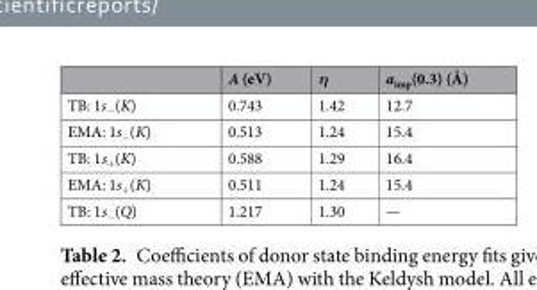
<table><thead><tr><td></td><td>A (eV)</td><td>η</td><td>a<sub>imp</sub>(0.3) (Å)</td></tr></thead><tbody><tr><td>TB: 1s<sub>−</sub>(K)</td><td>0.743</td><td>1.42</td><td>12.7</td></tr><tr><td>EMA: 1s<sub>−</sub>(K)</td><td>0.513</td><td>1.24</td><td>15.4</td></tr><tr><td>TB: 1s<sub>+</sub>(K)</td><td>0.588</td><td>1.29</td><td>16.4</td></tr><tr><td>EMA: 1s<sub>+</sub>(K)</td><td>0.511</td><td>1.24</td><td>15.4</td></tr><tr><td>TB: 1s<sub>−</sub>(Q)</td><td>1.217</td><td>1.30</td><td>—</td></tr></tbody></table>